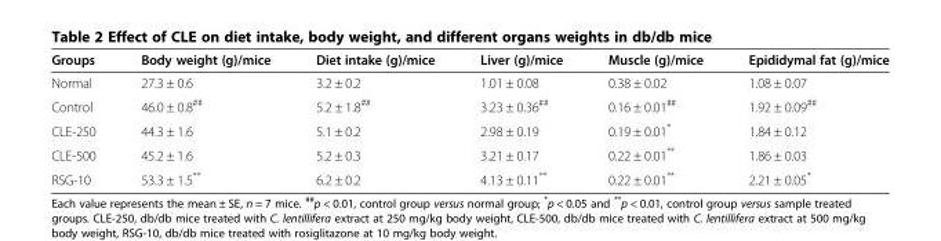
<table><thead><tr><td>Groups</td><td>Body weight (g)/mice</td><td>Diet intake (g)/mice</td><td>Liver (g)/mice</td><td>Muscle (g)/mice</td><td>Epididymal fat (g)/mice</td></tr></thead><tbody><tr><td>Normal</td><td>27.3 ± 0.6</td><td>3.2 ± 0.2</td><td>1.01 ± 0.08</td><td>0.38 ± 0.02</td><td>1.08 ± 0.07</td></tr><tr><td>Control</td><td>46.0 ± 0.8<sup>##</sup></td><td>5.2 ± 1.8<sup>##</sup></td><td>3.23 ± 0.36<sup>##</sup></td><td>0.16 ± 0.01<sup>##</sup></td><td>1.92 ± 0.09<sup>##</sup></td></tr><tr><td>CLE-250</td><td>44.3 ± 1.6</td><td>5.1 ± 0.2</td><td>2.98 ± 0.19</td><td>0.19 ± 0.01*</td><td>1.84 ± 0.12</td></tr><tr><td>CLE-500</td><td>45.2 ± 1.6</td><td>5.2 ± 0.3</td><td>3.21 ± 0.17</td><td>0.22 ± 0.01**</td><td>1.86 ± 0.03</td></tr><tr><td>RSG-10</td><td>53.3 ± 1.5**</td><td>6.2 ± 0.2</td><td>4.13 ± 0.11**</td><td>0.22 ± 0.01**</td><td>2.21 ± 0.05*</td></tr></tbody></table>